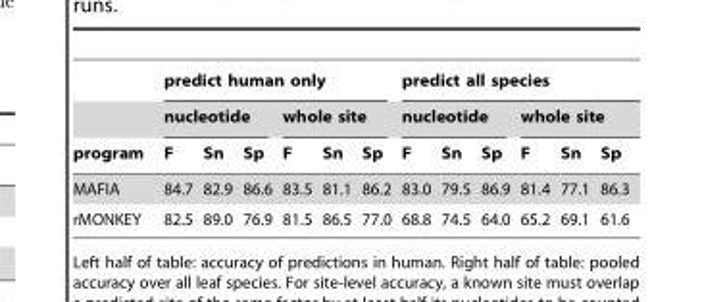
<table><thead><tr><td rowspan="3">program</td><td colspan="6">predict human only</td><td colspan="6">predict all species</td></tr><tr><td colspan="3">nucleotide</td><td colspan="3">whole site</td><td colspan="3">nucleotide</td><td colspan="3">whole site</td></tr><tr><td>F</td><td>Sn</td><td>Sp</td><td>F</td><td>Sn</td><td>Sp</td><td>F</td><td>Sn</td><td>Sp</td><td>F</td><td>Sn</td><td>Sp</td></tr></thead><tbody><tr><td>MAFIA</td><td>84.7</td><td>82.9</td><td>86.6</td><td>83.5</td><td>81.1</td><td>86.2</td><td>83.0</td><td>79.5</td><td>86.9</td><td>81.4</td><td>77.1</td><td>86.3</td></tr><tr><td>rMONKEY</td><td>82.5</td><td>89.0</td><td>76.9</td><td>81.5</td><td>86.5</td><td>77.0</td><td>68.8</td><td>74.5</td><td>64.0</td><td>65.2</td><td>69.1</td><td>61.6</td></tr></tbody></table>